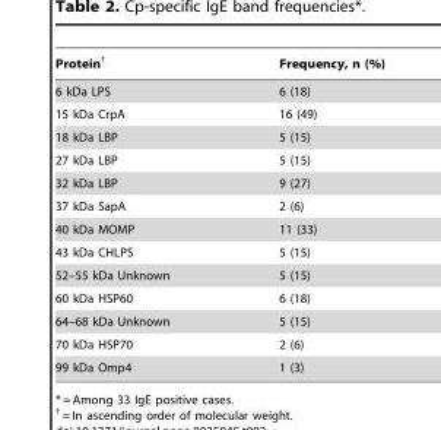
<table><thead><tr><td>Protein†</td><td>Frequency, n (%)</td></tr></thead><tbody><tr><td>6 kDa LPS</td><td>6 (18)</td></tr><tr><td>15 kDa CrpA</td><td>16 (49)</td></tr><tr><td>18 kDa LBP</td><td>5 (15)</td></tr><tr><td>27 kDa LBP</td><td>5 (15)</td></tr><tr><td>32 kDa LBP</td><td>9 (27)</td></tr><tr><td>37 kDa SapA</td><td>2 (6)</td></tr><tr><td>40 kDa MOMP</td><td>11 (33)</td></tr><tr><td>43 kDa CHLPS</td><td>5 (15)</td></tr><tr><td>52–55 kDa Unknown</td><td>5 (15)</td></tr><tr><td>60 kDa HSP60</td><td>6 (18)</td></tr><tr><td>64–68 kDa Unknown</td><td>5 (15)</td></tr><tr><td>70 kDa HSP70</td><td>2 (6)</td></tr><tr><td>99 kDa Omp4</td><td>1 (3)</td></tr></tbody></table>